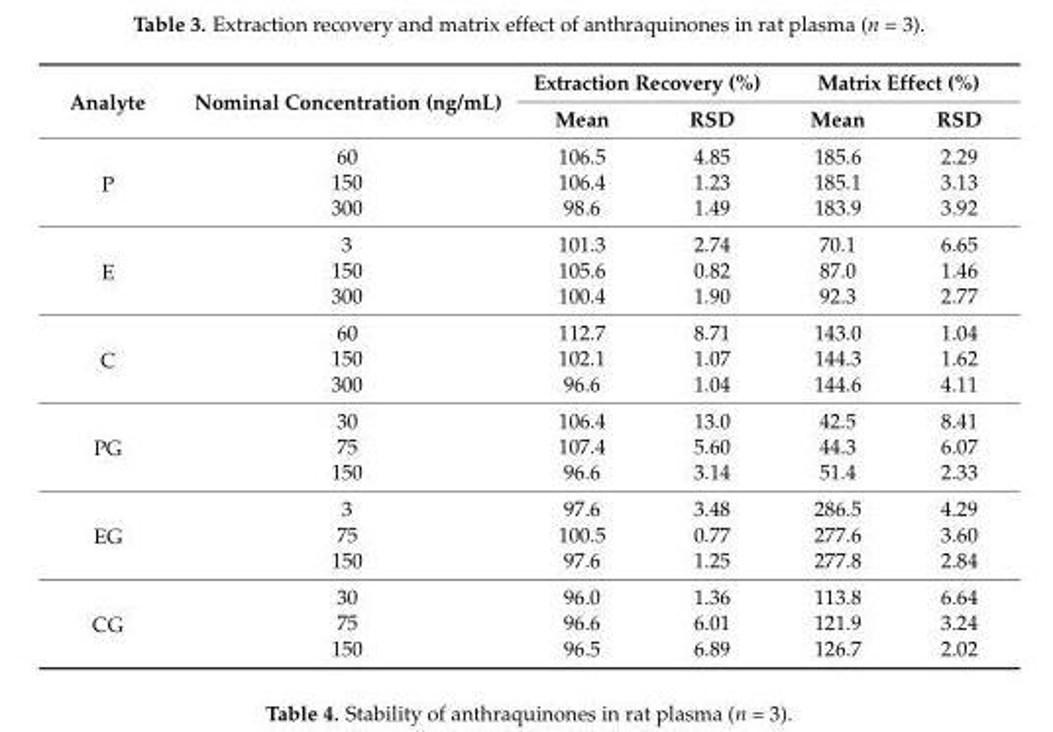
<table><thead><tr><td rowspan="2">Analyte</td><td rowspan="2">Nominal Concentration (ng/mL)</td><td colspan="2">Extraction Recovery (%)</td><td colspan="2">Matrix Effect (%)</td></tr><tr><td>Mean</td><td>RSD</td><td>Mean</td><td>RSD</td></tr></thead><tbody><tr><td rowspan="3">P</td><td>60</td><td>106.5</td><td>4.85</td><td>185.6</td><td>2.29</td></tr><tr><td>150</td><td>106.4</td><td>1.23</td><td>185.1</td><td>3.13</td></tr><tr><td>300</td><td>98.6</td><td>1.49</td><td>183.9</td><td>3.92</td></tr><tr><td rowspan="3">E</td><td>3</td><td>101.3</td><td>2.74</td><td>70.1</td><td>6.65</td></tr><tr><td>150</td><td>105.6</td><td>0.82</td><td>87.0</td><td>1.46</td></tr><tr><td>300</td><td>100.4</td><td>1.90</td><td>92.3</td><td>2.77</td></tr><tr><td rowspan="3">C</td><td>60</td><td>112.7</td><td>8.71</td><td>143.0</td><td>1.04</td></tr><tr><td>150</td><td>102.1</td><td>1.07</td><td>144.3</td><td>1.62</td></tr><tr><td>300</td><td>96.6</td><td>1.04</td><td>144.6</td><td>4.11</td></tr><tr><td rowspan="3">PG</td><td>30</td><td>106.4</td><td>13.0</td><td>42.5</td><td>8.41</td></tr><tr><td>75</td><td>107.4</td><td>5.60</td><td>44.3</td><td>6.07</td></tr><tr><td>150</td><td>96.6</td><td>3.14</td><td>51.4</td><td>2.33</td></tr><tr><td rowspan="3">EG</td><td>3</td><td>97.6</td><td>3.48</td><td>286.5</td><td>4.29</td></tr><tr><td>75</td><td>100.5</td><td>0.77</td><td>277.6</td><td>3.60</td></tr><tr><td>150</td><td>97.6</td><td>1.25</td><td>277.8</td><td>2.84</td></tr><tr><td rowspan="3">CG</td><td>30</td><td>96.0</td><td>1.36</td><td>113.8</td><td>6.64</td></tr><tr><td>75</td><td>96.6</td><td>6.01</td><td>121.9</td><td>3.24</td></tr><tr><td>150</td><td>96.5</td><td>6.89</td><td>126.7</td><td>2.02</td></tr></tbody></table>